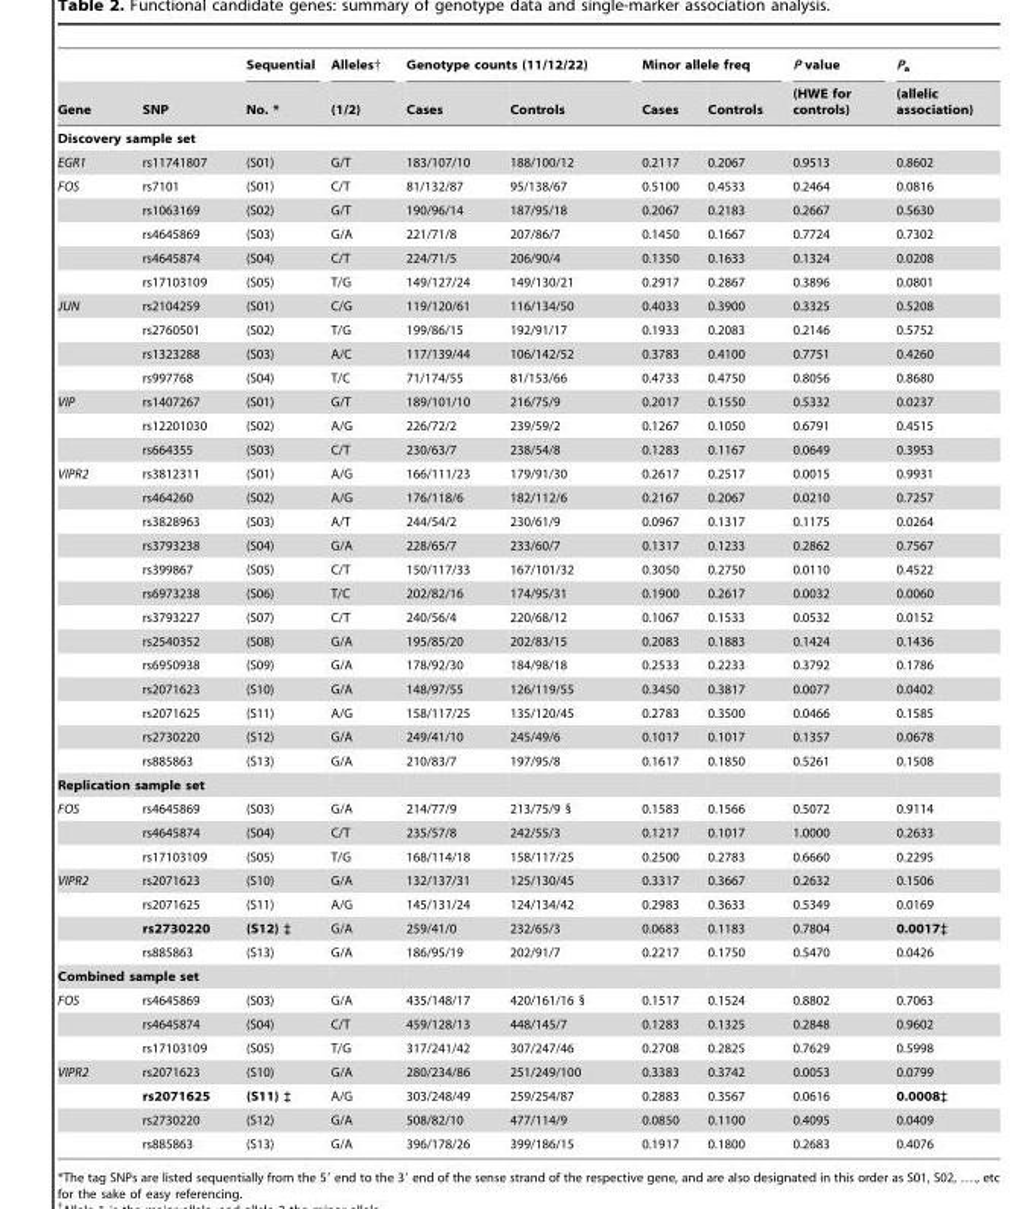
<table><thead><tr><td rowspan="2">Gene</td><td rowspan="2">SNP</td><td rowspan="2">Sequential No. *</td><td rowspan="2">Alleles† (1/2)</td><td colspan="2">Genotype counts (11/12/22)</td><td colspan="2">Minor allele freq</td><td rowspan="2">P value (HWE for controls)</td><td rowspan="2">P<sub>a</sub> (allelic association)</td></tr><tr><td>Cases</td><td>Controls</td><td>Cases</td><td>Controls</td></tr></thead><tbody><tr><td colspan="10">Discovery sample set</td></tr><tr><td>EGR1</td><td>rs11741807</td><td>(S01)</td><td>G/T</td><td>183/107/10</td><td>188/100/12</td><td>0.2117</td><td>0.2067</td><td>0.9513</td><td>0.8602</td></tr><tr><td rowspan="5">FOS</td><td>rs7101</td><td>(S01)</td><td>C/T</td><td>81/132/87</td><td>95/138/67</td><td>0.5100</td><td>0.4533</td><td>0.2464</td><td>0.0816</td></tr><tr><td>rs1063169</td><td>(S02)</td><td>G/T</td><td>190/96/14</td><td>187/95/18</td><td>0.2067</td><td>0.2183</td><td>0.2667</td><td>0.5630</td></tr><tr><td>rs4645869</td><td>(S03)</td><td>G/A</td><td>221/71/8</td><td>207/86/7</td><td>0.1450</td><td>0.1667</td><td>0.7724</td><td>0.7302</td></tr><tr><td>rs4645874</td><td>(S04)</td><td>C/T</td><td>224/71/5</td><td>206/90/4</td><td>0.1350</td><td>0.1633</td><td>0.1324</td><td>0.0208</td></tr><tr><td>rs17103109</td><td>(S05)</td><td>T/G</td><td>149/127/24</td><td>149/130/21</td><td>0.2917</td><td>0.2867</td><td>0.3896</td><td>0.0801</td></tr><tr><td rowspan="4">JUN</td><td>rs2104259</td><td>(S01)</td><td>C/G</td><td>119/120/61</td><td>116/134/50</td><td>0.4033</td><td>0.3900</td><td>0.3325</td><td>0.5208</td></tr><tr><td>rs2760501</td><td>(S02)</td><td>T/G</td><td>199/86/15</td><td>192/91/17</td><td>0.1933</td><td>0.2083</td><td>0.2146</td><td>0.5752</td></tr><tr><td>rs1323288</td><td>(S03)</td><td>A/C</td><td>117/139/44</td><td>106/142/52</td><td>0.3783</td><td>0.4100</td><td>0.7751</td><td>0.4260</td></tr><tr><td>rs997768</td><td>(S04)</td><td>T/C</td><td>71/174/55</td><td>81/153/66</td><td>0.4733</td><td>0.4750</td><td>0.8056</td><td>0.8680</td></tr><tr><td rowspan="3">VIP</td><td>rs1407267</td><td>(S01)</td><td>G/T</td><td>189/101/10</td><td>216/75/9</td><td>0.2017</td><td>0.1550</td><td>0.5332</td><td>0.0237</td></tr><tr><td>rs12201030</td><td>(S02)</td><td>A/G</td><td>226/72/2</td><td>239/59/2</td><td>0.1267</td><td>0.1050</td><td>0.6791</td><td>0.4515</td></tr><tr><td>rs664355</td><td>(S03)</td><td>C/T</td><td>230/63/7</td><td>238/54/8</td><td>0.1283</td><td>0.1167</td><td>0.0649</td><td>0.3953</td></tr><tr><td rowspan="13">VIPR2</td><td>rs3812311</td><td>(S01)</td><td>A/G</td><td>166/111/23</td><td>179/91/30</td><td>0.2617</td><td>0.2517</td><td>0.0015</td><td>0.9931</td></tr><tr><td>rs464260</td><td>(S02)</td><td>A/G</td><td>176/118/6</td><td>182/112/6</td><td>0.2167</td><td>0.2067</td><td>0.0210</td><td>0.7257</td></tr><tr><td>rs3828963</td><td>(S03)</td><td>A/T</td><td>244/54/2</td><td>230/61/9</td><td>0.0967</td><td>0.1317</td><td>0.1175</td><td>0.0264</td></tr><tr><td>rs3793238</td><td>(S04)</td><td>G/A</td><td>228/65/7</td><td>233/60/7</td><td>0.1317</td><td>0.1233</td><td>0.2862</td><td>0.7567</td></tr><tr><td>rs399867</td><td>(S05)</td><td>C/T</td><td>150/117/33</td><td>167/101/32</td><td>0.3050</td><td>0.2750</td><td>0.0110</td><td>0.4522</td></tr><tr><td>rs6973238</td><td>(S06)</td><td>T/C</td><td>202/82/16</td><td>174/95/31</td><td>0.1900</td><td>0.2617</td><td>0.0032</td><td>0.0060</td></tr><tr><td>rs3793227</td><td>(S07)</td><td>C/T</td><td>240/56/4</td><td>220/68/12</td><td>0.1067</td><td>0.1533</td><td>0.0532</td><td>0.0152</td></tr><tr><td>rs2540352</td><td>(S08)</td><td>G/A</td><td>195/85/20</td><td>202/83/15</td><td>0.2083</td><td>0.1883</td><td>0.1424</td><td>0.1436</td></tr><tr><td>rs6950938</td><td>(S09)</td><td>G/A</td><td>178/92/30</td><td>184/98/18</td><td>0.2533</td><td>0.2233</td><td>0.3792</td><td>0.1786</td></tr><tr><td>rs2071623</td><td>(S10)</td><td>G/A</td><td>148/97/55</td><td>126/119/55</td><td>0.3450</td><td>0.3817</td><td>0.0077</td><td>0.0402</td></tr><tr><td>rs2071625</td><td>(S11)</td><td>A/G</td><td>158/117/25</td><td>135/120/45</td><td>0.2783</td><td>0.3500</td><td>0.0466</td><td>0.1585</td></tr><tr><td>rs2730220</td><td>(S12)</td><td>G/A</td><td>249/41/10</td><td>245/49/6</td><td>0.1017</td><td>0.1017</td><td>0.1357</td><td>0.0678</td></tr><tr><td>rs885863</td><td>(S13)</td><td>G/A</td><td>210/83/7</td><td>197/95/8</td><td>0.1617</td><td>0.1850</td><td>0.5261</td><td>0.1508</td></tr><tr><td colspan="10">Replication sample set</td></tr><tr><td rowspan="3">FOS</td><td>rs4645869</td><td>(S03)</td><td>G/A</td><td>214/77/9</td><td>213/75/9 §</td><td>0.1583</td><td>0.1566</td><td>0.5072</td><td>0.9114</td></tr><tr><td>rs4645874</td><td>(S04)</td><td>C/T</td><td>235/57/8</td><td>242/55/3</td><td>0.1217</td><td>0.1017</td><td>1.0000</td><td>0.2633</td></tr><tr><td>rs17103109</td><td>(S05)</td><td>T/G</td><td>168/114/18</td><td>158/117/25</td><td>0.2500</td><td>0.2783</td><td>0.6660</td><td>0.2295</td></tr><tr><td rowspan="4">VIPR2</td><td>rs2071623</td><td>(S10)</td><td>G/A</td><td>132/137/31</td><td>125/130/45</td><td>0.3317</td><td>0.3667</td><td>0.2632</td><td>0.1506</td></tr><tr><td>rs2071625</td><td>(S11)</td><td>A/G</td><td>145/131/24</td><td>124/134/42</td><td>0.2983</td><td>0.3633</td><td>0.5349</td><td>0.0169</td></tr><tr><td>rs2730220</td><td>(S12) ‡</td><td>G/A</td><td>259/41/0</td><td>232/65/3</td><td>0.0683</td><td>0.1183</td><td>0.7804</td><td>0.0017‡</td></tr><tr><td>rs885863</td><td>(S13)</td><td>G/A</td><td>186/95/19</td><td>202/91/7</td><td>0.2217</td><td>0.1750</td><td>0.5470</td><td>0.0426</td></tr><tr><td colspan="10">Combined sample set</td></tr><tr><td rowspan="3">FOS</td><td>rs4645869</td><td>(S03)</td><td>G/A</td><td>435/148/17</td><td>420/161/16 §</td><td>0.1517</td><td>0.1524</td><td>0.8802</td><td>0.7063</td></tr><tr><td>rs4645874</td><td>(S04)</td><td>C/T</td><td>459/128/13</td><td>448/145/7</td><td>0.1283</td><td>0.1325</td><td>0.2848</td><td>0.9602</td></tr><tr><td>rs17103109</td><td>(S05)</td><td>T/G</td><td>317/241/42</td><td>307/247/46</td><td>0.2708</td><td>0.2825</td><td>0.7629</td><td>0.5998</td></tr><tr><td rowspan="4">VIPR2</td><td>rs2071623</td><td>(S10)</td><td>G/A</td><td>280/234/86</td><td>251/249/100</td><td>0.3383</td><td>0.3742</td><td>0.0053</td><td>0.0799</td></tr><tr><td>rs2071625</td><td>(S11) ‡</td><td>A/G</td><td>303/248/49</td><td>259/254/87</td><td>0.2883</td><td>0.3567</td><td>0.0616</td><td>0.0008‡</td></tr><tr><td>rs2730220</td><td>(S12)</td><td>G/A</td><td>508/82/10</td><td>477/114/9</td><td>0.0850</td><td>0.1100</td><td>0.4095</td><td>0.0409</td></tr><tr><td>rs885863</td><td>(S13)</td><td>G/A</td><td>396/178/26</td><td>399/186/15</td><td>0.1917</td><td>0.1800</td><td>0.2683</td><td>0.4076</td></tr></tbody></table>